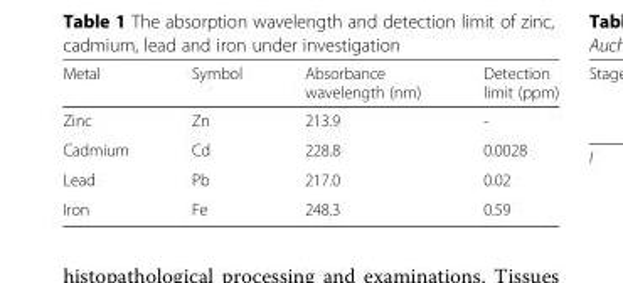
<table><thead><tr><td>Metal</td><td>Symbol</td><td>Absorbance wavelength (nm)</td><td>Detection limit (ppm)</td></tr></thead><tbody><tr><td>Zinc</td><td>Zn</td><td>213.9</td><td>-</td></tr><tr><td>Cadmium</td><td>Cd</td><td>228.8</td><td>0.0028</td></tr><tr><td>Lead</td><td>Pb</td><td>217.0</td><td>0.02</td></tr><tr><td>Iron</td><td>Fe</td><td>248.3</td><td>0.59</td></tr></tbody></table>